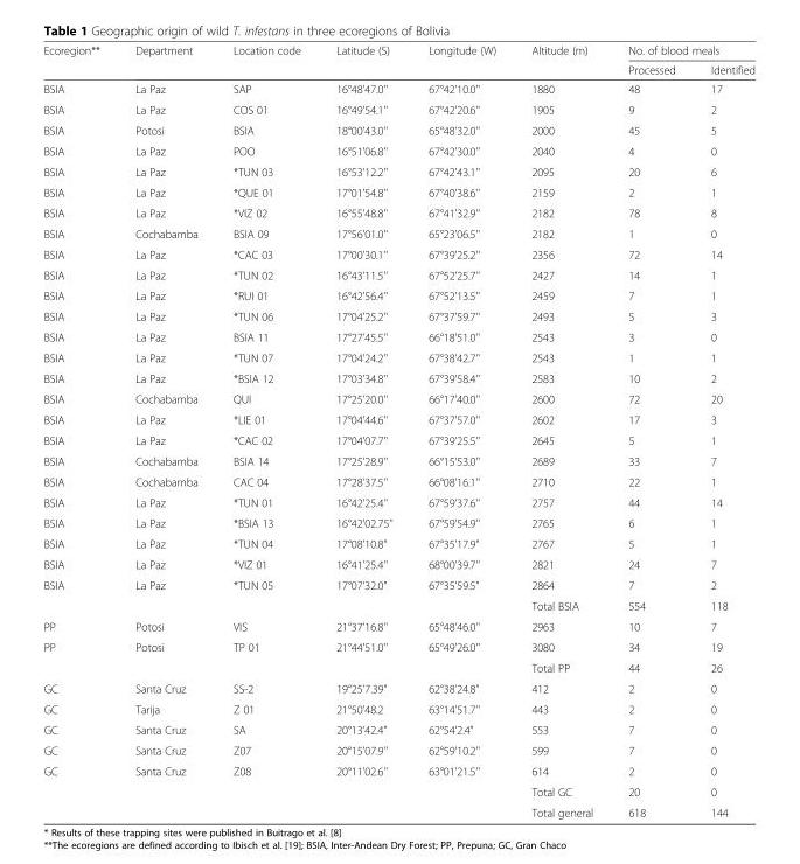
<table><thead><tr><td rowspan="2">Ecoregion**</td><td rowspan="2">Department</td><td rowspan="2">Location code</td><td rowspan="2">Latitude (S)</td><td rowspan="2">Longitude (W)</td><td rowspan="2">Altitude (m)</td><td colspan="2">No. of blood meals</td></tr><tr><td>Processed</td><td>Identified</td></tr></thead><tbody><tr><td>BSIA</td><td>La Paz</td><td>SAP</td><td>16°48&#x27;47.0&#x27;&#x27;</td><td>67°42&#x27;10.0&#x27;&#x27;</td><td>1880</td><td>48</td><td>17</td></tr><tr><td>BSIA</td><td>La Paz</td><td>COS 01</td><td>16°49&#x27;54.1&#x27;&#x27;</td><td>67°42&#x27;20.6&#x27;&#x27;</td><td>1905</td><td>9</td><td>2</td></tr><tr><td>BSIA</td><td>Potosi</td><td>BSIA</td><td>18°00&#x27;43.0&#x27;&#x27;</td><td>65°48&#x27;32.0&#x27;&#x27;</td><td>2000</td><td>45</td><td>5</td></tr><tr><td>BSIA</td><td>La Paz</td><td>POO</td><td>16°51&#x27;06.8&#x27;&#x27;</td><td>67°42&#x27;30.0&#x27;&#x27;</td><td>2040</td><td>4</td><td>0</td></tr><tr><td>BSIA</td><td>La Paz</td><td>*TUN 03</td><td>16°53&#x27;12.2&#x27;&#x27;</td><td>67°42&#x27;43.1&#x27;&#x27;</td><td>2095</td><td>20</td><td>6</td></tr><tr><td>BSIA</td><td>La Paz</td><td>*QUE 01</td><td>17°01&#x27;54.8&#x27;&#x27;</td><td>67°40&#x27;38.6&#x27;&#x27;</td><td>2159</td><td>2</td><td>1</td></tr><tr><td>BSIA</td><td>La Paz</td><td>*VIZ 02</td><td>16°55&#x27;48.8&#x27;&#x27;</td><td>67°41&#x27;32.9&#x27;&#x27;</td><td>2182</td><td>78</td><td>8</td></tr><tr><td>BSIA</td><td>Cochabamba</td><td>BSIA 09</td><td>17°56&#x27;01.0&#x27;&#x27;</td><td>65°23&#x27;06.5&#x27;&#x27;</td><td>2182</td><td>1</td><td>0</td></tr><tr><td>BSIA</td><td>La Paz</td><td>*CAC 03</td><td>17°00&#x27;30.1&#x27;&#x27;</td><td>67°39&#x27;25.2&#x27;&#x27;</td><td>2356</td><td>72</td><td>14</td></tr><tr><td>BSIA</td><td>La Paz</td><td>*TUN 02</td><td>16°43&#x27;11.5&#x27;&#x27;</td><td>67°52&#x27;25.7&#x27;&#x27;</td><td>2427</td><td>14</td><td>1</td></tr><tr><td>BSIA</td><td>La Paz</td><td>*RUI 01</td><td>16°42&#x27;56.4&#x27;&#x27;</td><td>67°52&#x27;13.5&#x27;&#x27;</td><td>2459</td><td>7</td><td>1</td></tr><tr><td>BSIA</td><td>La Paz</td><td>*TUN 06</td><td>17°04&#x27;25.2&#x27;&#x27;</td><td>67°37&#x27;59.7&#x27;&#x27;</td><td>2493</td><td>5</td><td>3</td></tr><tr><td>BSIA</td><td>La Paz</td><td>BSIA 11</td><td>17°27&#x27;45.5&#x27;&#x27;</td><td>66°18&#x27;51.0&#x27;&#x27;</td><td>2543</td><td>3</td><td>0</td></tr><tr><td>BSIA</td><td>La Paz</td><td>*TUN 07</td><td>17°04&#x27;24.2&#x27;&#x27;</td><td>67°38&#x27;42.7&#x27;&#x27;</td><td>2543</td><td>1</td><td>1</td></tr><tr><td>BSIA</td><td>La Paz</td><td>*BSIA 12</td><td>17°03&#x27;34.8&#x27;&#x27;</td><td>67°39&#x27;58.4&#x27;&#x27;</td><td>2583</td><td>10</td><td>2</td></tr><tr><td>BSIA</td><td>Cochabamba</td><td>QUI</td><td>17°25&#x27;20.0&#x27;&#x27;</td><td>66°17&#x27;40.0&#x27;&#x27;</td><td>2600</td><td>72</td><td>20</td></tr><tr><td>BSIA</td><td>La Paz</td><td>*LIE 01</td><td>17°04&#x27;44.6&#x27;&#x27;</td><td>67°37&#x27;57.0&#x27;&#x27;</td><td>2602</td><td>17</td><td>3</td></tr><tr><td>BSIA</td><td>La Paz</td><td>*CAC 02</td><td>17°04&#x27;07.7&#x27;&#x27;</td><td>67°39&#x27;25.5&#x27;&#x27;</td><td>2645</td><td>5</td><td>1</td></tr><tr><td>BSIA</td><td>Cochabamba</td><td>BSIA 14</td><td>17°25&#x27;28.9&#x27;&#x27;</td><td>66°15&#x27;53.0&#x27;&#x27;</td><td>2689</td><td>33</td><td>7</td></tr><tr><td>BSIA</td><td>Cochabamba</td><td>CAC 04</td><td>17°28&#x27;37.5&#x27;&#x27;</td><td>66°08&#x27;16.1&#x27;&#x27;</td><td>2710</td><td>22</td><td>1</td></tr><tr><td>BSIA</td><td>La Paz</td><td>*TUN 01</td><td>16°42&#x27;25.4&#x27;&#x27;</td><td>67°59&#x27;37.6&#x27;&#x27;</td><td>2757</td><td>44</td><td>14</td></tr><tr><td>BSIA</td><td>La Paz</td><td>*BSIA 13</td><td>16°42&#x27;02.75&#x27;&#x27;</td><td>67°59&#x27;54.9&#x27;&#x27;</td><td>2765</td><td>6</td><td>1</td></tr><tr><td>BSIA</td><td>La Paz</td><td>*TUN 04</td><td>17°08&#x27;10.8&quot;</td><td>67°35&#x27;17.9&quot;</td><td>2767</td><td>5</td><td>1</td></tr><tr><td>BSIA</td><td>La Paz</td><td>*VIZ 01</td><td>16°41&#x27;25.4&#x27;&#x27;</td><td>68°00&#x27;39.7&#x27;&#x27;</td><td>2821</td><td>24</td><td>7</td></tr><tr><td rowspan="2">BSIA</td><td>La Paz</td><td>*TUN 05</td><td>17°07&#x27;32.0&quot;</td><td>67°35&#x27;59.5&quot;</td><td>2864</td><td>7</td><td>2</td></tr><tr><td></td><td></td><td></td><td></td><td>Total BSIA</td><td>554</td><td>118</td></tr><tr><td>PP</td><td>Potosi</td><td>VIS</td><td>21°37&#x27;16.8&#x27;&#x27;</td><td>65°48&#x27;46.0&#x27;&#x27;</td><td>2963</td><td>10</td><td>7</td></tr><tr><td rowspan="2">PP</td><td>Potosi</td><td>TP 01</td><td>21°44&#x27;51.0&#x27;&#x27;</td><td>65°49&#x27;26.0&#x27;&#x27;</td><td>3080</td><td>34</td><td>19</td></tr><tr><td></td><td></td><td></td><td></td><td>Total PP</td><td>44</td><td>26</td></tr><tr><td>GC</td><td>Santa Cruz</td><td>SS-2</td><td>19°25&#x27;7.39&quot;</td><td>62°38&#x27;24.8&quot;</td><td>412</td><td>2</td><td>0</td></tr><tr><td>GC</td><td>Tarija</td><td>Z 01</td><td>21°50&#x27;48.2</td><td>63°14&#x27;51.7&#x27;&#x27;</td><td>443</td><td>2</td><td>0</td></tr><tr><td>GC</td><td>Santa Cruz</td><td>SA</td><td>20°13&#x27;42.4&quot;</td><td>62°54&#x27;2.4&quot;</td><td>553</td><td>7</td><td>0</td></tr><tr><td>GC</td><td>Santa Cruz</td><td>Z07</td><td>20°15&#x27;07.9&#x27;&#x27;</td><td>62°59&#x27;10.2&#x27;&#x27;</td><td>599</td><td>7</td><td>0</td></tr><tr><td rowspan="3">GC</td><td>Santa Cruz</td><td>Z08</td><td>20°11&#x27;02.6&#x27;&#x27;</td><td>63°01&#x27;21.5&#x27;&#x27;</td><td>614</td><td>2</td><td>0</td></tr><tr><td></td><td></td><td></td><td></td><td>Total GC</td><td>20</td><td>0</td></tr><tr><td></td><td></td><td></td><td></td><td>Total general</td><td>618</td><td>144</td></tr></tbody></table>